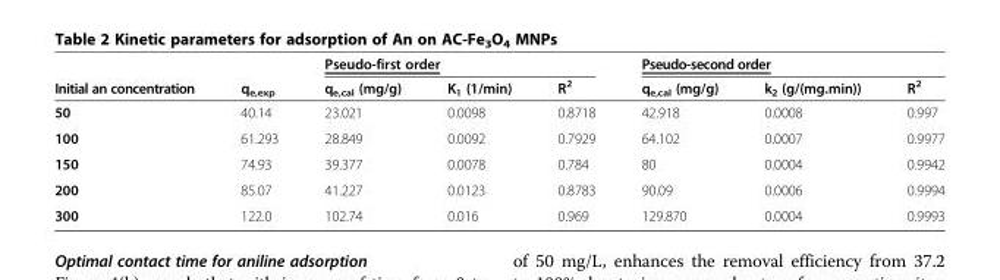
<table><thead><tr><td rowspan="2">Initial an concentration</td><td rowspan="2">q<sub>e,exp</sub></td><td colspan="3">Pseudo-first order</td><td colspan="3">Pseudo-second order</td></tr><tr><td>q<sub>e,cal</sub> (mg/g)</td><td>K<sub>1</sub> (1/min)</td><td>R<sup>2</sup></td><td>q<sub>e,cal</sub> (mg/g)</td><td>k<sub>2</sub> (g/(mg.min))</td><td>R<sup>2</sup></td></tr></thead><tbody><tr><td>50</td><td>40.14</td><td>23.021</td><td>0.0098</td><td>0.8718</td><td>42.918</td><td>0.0008</td><td>0.997</td></tr><tr><td>100</td><td>61.293</td><td>28.849</td><td>0.0092</td><td>0.7929</td><td>64.102</td><td>0.0007</td><td>0.9977</td></tr><tr><td>150</td><td>74.93</td><td>39.377</td><td>0.0078</td><td>0.784</td><td>80</td><td>0.0004</td><td>0.9942</td></tr><tr><td>200</td><td>85.07</td><td>41.227</td><td>0.0123</td><td>0.8783</td><td>90.09</td><td>0.0006</td><td>0.9994</td></tr><tr><td>300</td><td>122.0</td><td>102.74</td><td>0.016</td><td>0.969</td><td>129.870</td><td>0.0004</td><td>0.9993</td></tr></tbody></table>